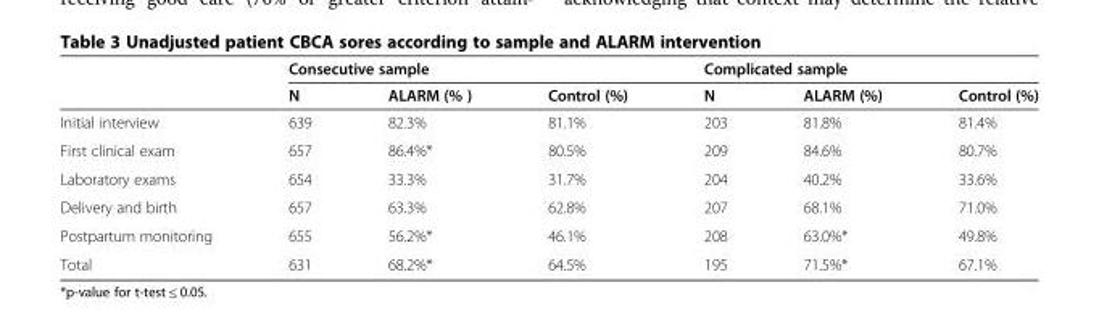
<table><thead><tr><td rowspan="2"></td><td colspan="3">Consecutive sample</td><td colspan="3">Complicated sample</td></tr><tr><td>N</td><td>ALARM (% )</td><td>Control (%)</td><td>N</td><td>ALARM (%)</td><td>Control (%)</td></tr></thead><tbody><tr><td>Initial interview</td><td>639</td><td>82.3%</td><td>81.1%</td><td>203</td><td>81.8%</td><td>81.4%</td></tr><tr><td>First clinical exam</td><td>657</td><td>86.4%*</td><td>80.5%</td><td>209</td><td>84.6%</td><td>80.7%</td></tr><tr><td>Laboratory exams</td><td>654</td><td>33.3%</td><td>31.7%</td><td>204</td><td>40.2%</td><td>33.6%</td></tr><tr><td>Delivery and birth</td><td>657</td><td>63.3%</td><td>62.8%</td><td>207</td><td>68.1%</td><td>71.0%</td></tr><tr><td>Postpartum monitoring</td><td>655</td><td>56.2%*</td><td>46.1%</td><td>208</td><td>63.0%*</td><td>49.8%</td></tr><tr><td>Total</td><td>631</td><td>68.2%*</td><td>64.5%</td><td>195</td><td>71.5%*</td><td>67.1%</td></tr></tbody></table>